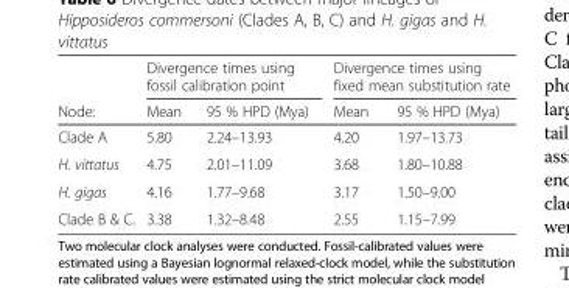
<table><thead><tr><td rowspan="2">Node:</td><td colspan="2">Divergence times using fossil calibration point</td><td colspan="2">Divergence times using fixed mean substitution rate</td></tr><tr><td>Mean</td><td>95 % HPD (Mya)</td><td>Mean</td><td>95 % HPD (Mya)</td></tr></thead><tbody><tr><td>Clade A</td><td>5.80</td><td>2.24–13.93</td><td>4.20</td><td>1.97–13.73</td></tr><tr><td>H. vittatus</td><td>4.75</td><td>2.01–11.09</td><td>3.68</td><td>1.80–10.88</td></tr><tr><td>H. gigas</td><td>4.16</td><td>1.77–9.68</td><td>3.17</td><td>1.50–9.00</td></tr><tr><td>Clade B &amp; C.</td><td>3.38</td><td>1.32–8.48</td><td>2.55</td><td>1.15–7.99</td></tr></tbody></table>